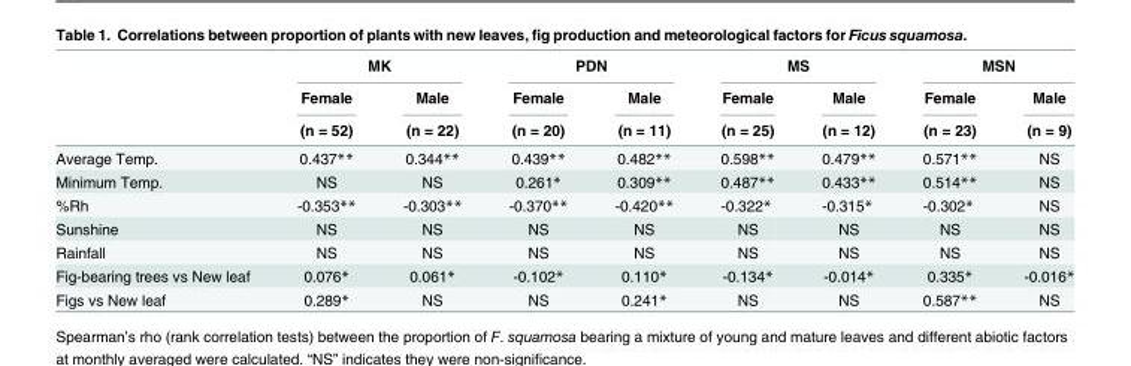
<table><thead><tr><td rowspan="3"></td><td colspan="2">MK</td><td colspan="2">PDN</td><td colspan="2">MS</td><td colspan="2">MSN</td></tr><tr><td rowspan="2">Female (n = 52)</td><td rowspan="2">Male (n = 22)</td><td rowspan="2">Female (n = 20)</td><td rowspan="2">Male (n = 11)</td><td rowspan="2">Female (n = 25)</td><td rowspan="2">Male (n = 12)</td><td rowspan="2">Female (n = 23)</td><td rowspan="2">Male (n = 9)</td></tr><tr></tr></thead><tbody><tr><td>Average Temp.</td><td>0.437**</td><td>0.344**</td><td>0.439**</td><td>0.482**</td><td>0.598**</td><td>0.479**</td><td>0.571**</td><td>NS</td></tr><tr><td>Minimum Temp.</td><td>NS</td><td>NS</td><td>0.261*</td><td>0.309**</td><td>0.487**</td><td>0.433**</td><td>0.514**</td><td>NS</td></tr><tr><td>%Rh</td><td>-0.353**</td><td>-0.303**</td><td>-0.370**</td><td>-0.420**</td><td>-0.322*</td><td>-0.315*</td><td>-0.302*</td><td>NS</td></tr><tr><td>Sunshine</td><td>NS</td><td>NS</td><td>NS</td><td>NS</td><td>NS</td><td>NS</td><td>NS</td><td>NS</td></tr><tr><td>Rainfall</td><td>NS</td><td>NS</td><td>NS</td><td>NS</td><td>NS</td><td>NS</td><td>NS</td><td>NS</td></tr><tr><td>Fig-bearing trees vs New leaf</td><td>0.076*</td><td>0.061*</td><td>-0.102*</td><td>0.110*</td><td>-0.134*</td><td>-0.014*</td><td>0.335*</td><td>-0.016*</td></tr><tr><td>Figs vs New leaf</td><td>0.289*</td><td>NS</td><td>NS</td><td>0.241*</td><td>NS</td><td>NS</td><td>0.587**</td><td>NS</td></tr></tbody></table>